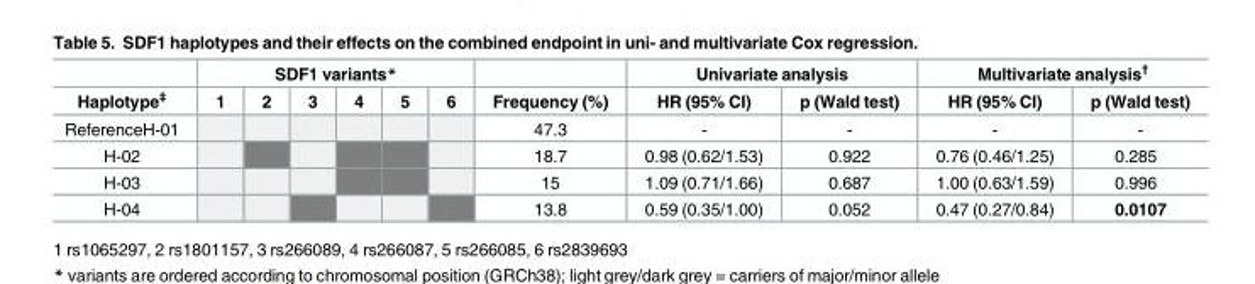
<table><thead><tr><td rowspan="2">Haplotype<sup>‡</sup></td><td colspan="6">SDF1 variants*</td><td rowspan="2">Frequency (%)</td><td colspan="2">Univariate analysis</td><td colspan="2">Multivariate analysis<sup>†</sup></td></tr><tr><td>1</td><td>2</td><td>3</td><td>4</td><td>5</td><td>6</td><td>HR (95% CI)</td><td>p (Wald test)</td><td>HR (95% CI)</td><td>p (Wald test)</td></tr></thead><tbody><tr><td>ReferenceH-01</td><td></td><td></td><td></td><td></td><td></td><td></td><td>47.3</td><td>-</td><td>-</td><td>-</td><td>-</td></tr><tr><td>H-02</td><td></td><td></td><td></td><td></td><td></td><td></td><td>18.7</td><td>0.98 (0.62/1.53)</td><td>0.922</td><td>0.76 (0.46/1.25)</td><td>0.285</td></tr><tr><td>H-03</td><td></td><td></td><td></td><td></td><td></td><td></td><td>15</td><td>1.09 (0.71/1.66)</td><td>0.687</td><td>1.00 (0.63/1.59)</td><td>0.996</td></tr><tr><td>H-04</td><td></td><td></td><td></td><td></td><td></td><td></td><td>13.8</td><td>0.59 (0.35/1.00)</td><td>0.052</td><td>0.47 (0.27/0.84)</td><td>0.0107</td></tr></tbody></table>